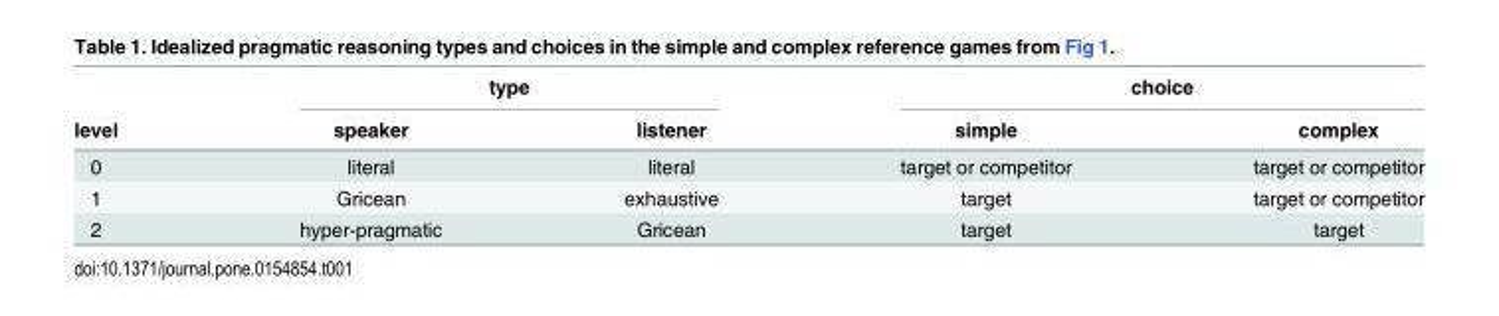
<table><thead><tr><td rowspan="2">level</td><td colspan="2">type</td><td colspan="2">choice</td></tr><tr><td>speaker</td><td>listener</td><td>simple</td><td>complex</td></tr></thead><tbody><tr><td>0</td><td>literal</td><td>literal</td><td>target or competitor</td><td>target or competitor</td></tr><tr><td>1</td><td>Gricean</td><td>exhaustive</td><td>target</td><td>target or competitor</td></tr><tr><td>2</td><td>hyper-pragmatic</td><td>Gricean</td><td>target</td><td>target</td></tr></tbody></table>